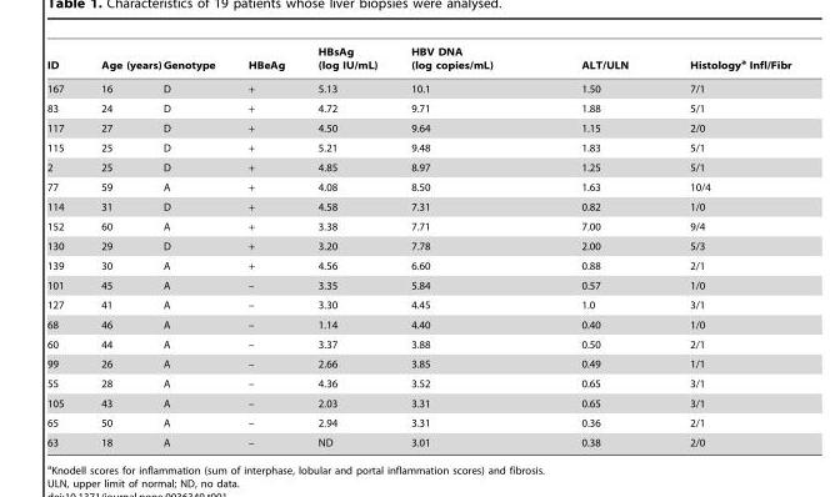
<table><thead><tr><td>ID</td><td>Age (years)</td><td>Genotype</td><td>HBeAg</td><td>HBsAg (log IU/mL)</td><td>HBV DNA (log copies/mL)</td><td>ALT/ULN</td><td>Histology<sup>a</sup> Infl/Fibr</td></tr></thead><tbody><tr><td>167</td><td>16</td><td>D</td><td>+</td><td>5.13</td><td>10.1</td><td>1.50</td><td>7/1</td></tr><tr><td>83</td><td>24</td><td>D</td><td>+</td><td>4.72</td><td>9.71</td><td>1.88</td><td>5/1</td></tr><tr><td>117</td><td>27</td><td>D</td><td>+</td><td>4.50</td><td>9.64</td><td>1.15</td><td>2/0</td></tr><tr><td>115</td><td>25</td><td>D</td><td>+</td><td>5.21</td><td>9.48</td><td>1.83</td><td>5/1</td></tr><tr><td>2</td><td>25</td><td>D</td><td>+</td><td>4.85</td><td>8.97</td><td>1.25</td><td>5/1</td></tr><tr><td>77</td><td>59</td><td>A</td><td>+</td><td>4.08</td><td>8.50</td><td>1.63</td><td>10/4</td></tr><tr><td>114</td><td>31</td><td>D</td><td>+</td><td>4.58</td><td>7.31</td><td>0.82</td><td>1/0</td></tr><tr><td>152</td><td>60</td><td>A</td><td>+</td><td>3.38</td><td>7.71</td><td>7.00</td><td>9/4</td></tr><tr><td>130</td><td>29</td><td>D</td><td>+</td><td>3.20</td><td>7.78</td><td>2.00</td><td>5/3</td></tr><tr><td>139</td><td>30</td><td>A</td><td>+</td><td>4.56</td><td>6.60</td><td>0.88</td><td>2/1</td></tr><tr><td>101</td><td>45</td><td>A</td><td>–</td><td>3.35</td><td>5.84</td><td>0.57</td><td>1/0</td></tr><tr><td>127</td><td>41</td><td>A</td><td>–</td><td>3.30</td><td>4.45</td><td>1.0</td><td>3/1</td></tr><tr><td>68</td><td>46</td><td>A</td><td>–</td><td>1.14</td><td>4.40</td><td>0.40</td><td>1/0</td></tr><tr><td>60</td><td>44</td><td>A</td><td>–</td><td>3.37</td><td>3.88</td><td>0.50</td><td>2/1</td></tr><tr><td>99</td><td>26</td><td>A</td><td>–</td><td>2.66</td><td>3.85</td><td>0.49</td><td>1/1</td></tr><tr><td>55</td><td>28</td><td>A</td><td>–</td><td>4.36</td><td>3.52</td><td>0.65</td><td>3/1</td></tr><tr><td>105</td><td>43</td><td>A</td><td>–</td><td>2.03</td><td>3.31</td><td>0.65</td><td>3/1</td></tr><tr><td>65</td><td>50</td><td>A</td><td>–</td><td>2.94</td><td>3.31</td><td>0.36</td><td>2/1</td></tr><tr><td>63</td><td>18</td><td>A</td><td>–</td><td>ND</td><td>3.01</td><td>0.38</td><td>2/0</td></tr></tbody></table>